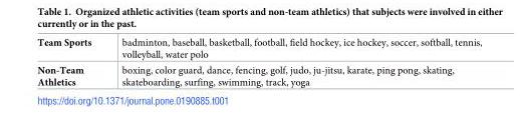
<table><tbody><tr><td>Team Sports</td><td>badminton, baseball, basketball, football, field hockey, ice hockey, soccer, softball, tennis, volleyball, water polo</td></tr><tr><td>Non-Team Athletics</td><td>boxing, color guard, dance, fencing, golf, judo, ju-jitsu, karate, ping pong, skating, skateboarding, surfing, swimming, track, yoga</td></tr></tbody></table>